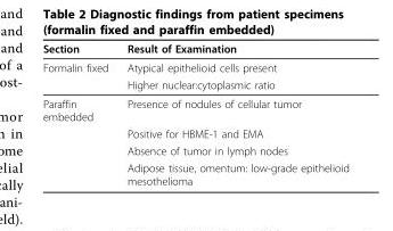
<table><thead><tr><td>Section</td><td>Result of Examination</td></tr></thead><tbody><tr><td rowspan="2">Formalin fixed</td><td>Atypical epithelioid cells present</td></tr><tr><td>Higher nuclear:cytoplasmic ratio</td></tr><tr><td rowspan="4">Paraffin embedded</td><td>Presence of nodules of cellular tumor</td></tr><tr><td>Positive for HBME-1 and EMA</td></tr><tr><td>Absence of tumor in lymph nodes</td></tr><tr><td>Adipose tissue, omentum: low-grade epithelioid mesothelioma</td></tr></tbody></table>